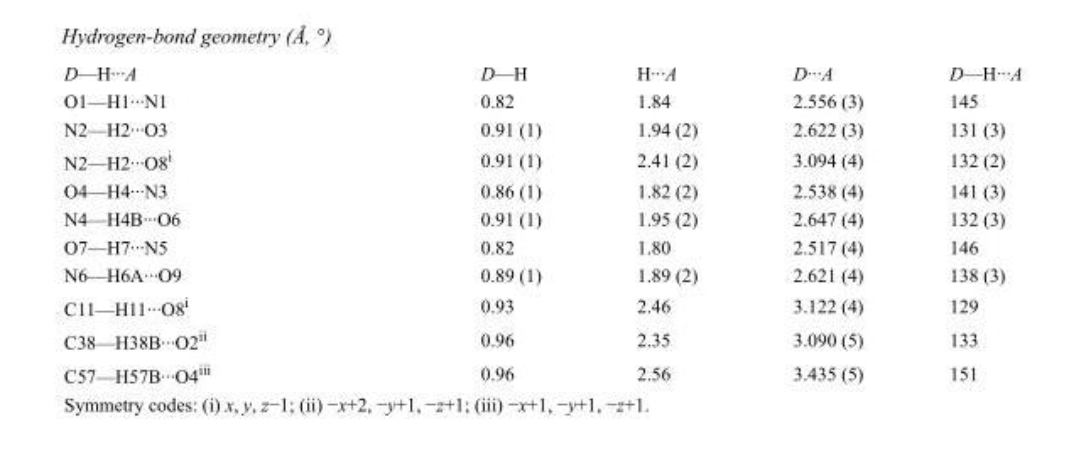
<table><tbody><tr><td>D—H···A</td><td>D—H</td><td>H···A</td><td>D···A</td><td>D—H···A</td></tr><tr><td>O1—H1···N1</td><td>0.82</td><td>1.84</td><td>2.556 (3)</td><td>145</td></tr><tr><td>N2—H2···O3</td><td>0.91 (1)</td><td>1.94 (2)</td><td>2.622 (3)</td><td>131 (3)</td></tr><tr><td>N2—H2···O8<sup>i</sup></td><td>0.91 (1)</td><td>2.41 (2)</td><td>3.094 (4)</td><td>132 (2)</td></tr><tr><td>O4—H4···N3</td><td>0.86 (1)</td><td>1.82 (2)</td><td>2.538 (4)</td><td>141 (3)</td></tr><tr><td>N4—H4B···O6</td><td>0.91 (1)</td><td>1.95 (2)</td><td>2.647 (4)</td><td>132 (3)</td></tr><tr><td>O7—H7···N5</td><td>0.82</td><td>1.80</td><td>2.517 (4)</td><td>146</td></tr><tr><td>N6—H6A···O9</td><td>0.89 (1)</td><td>1.89 (2)</td><td>2.621 (4)</td><td>138 (3)</td></tr><tr><td>C11—H11···O8<sup>i</sup></td><td>0.93</td><td>2.46</td><td>3.122 (4)</td><td>129</td></tr><tr><td>C38—H38B···O2<sup>ii</sup></td><td>0.96</td><td>2.35</td><td>3.090 (5)</td><td>133</td></tr><tr><td>C57—H57B···O4<sup>iii</sup></td><td>0.96</td><td>2.56</td><td>3.435 (5)</td><td>151</td></tr></tbody></table>